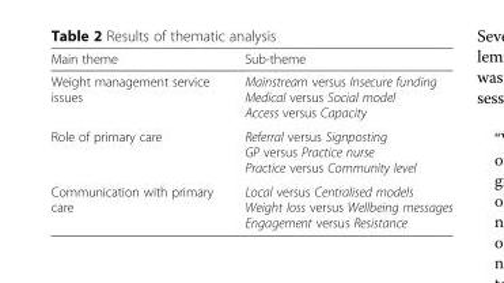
<table><thead><tr><td>Main theme</td><td>Sub-theme</td></tr></thead><tbody><tr><td>Weight management service issues</td><td>Mainstream versus Insecure funding Medical versus Social model Access versus Capacity</td></tr><tr><td>Role of primary care</td><td>Referral versus Signposting GP versus Practice nurse Practice versus Community level</td></tr><tr><td>Communication with primary care</td><td>Local versus Centralised models Weight loss versus Wellbeing messages Engagement versus Resistance</td></tr></tbody></table>